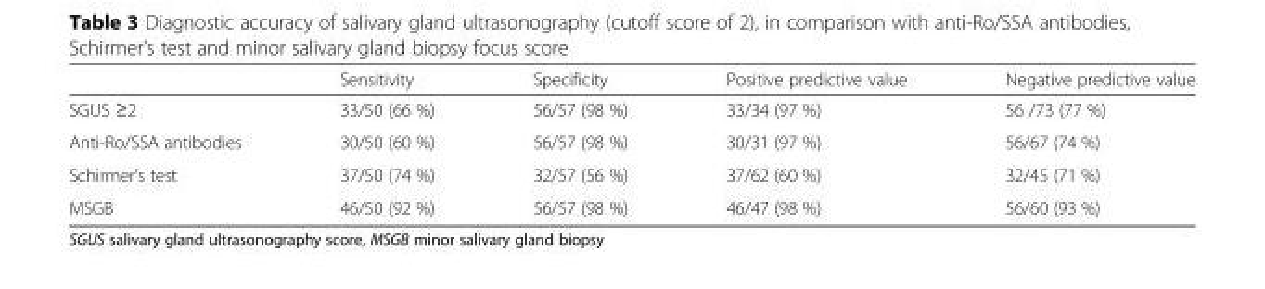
<table><thead><tr><td></td><td>Sensitivity</td><td>Specificity</td><td>Positive predictive value</td><td>Negative predictive value</td></tr></thead><tbody><tr><td>SGUS ≥2</td><td>33/50 (66 %)</td><td>56/57 (98 %)</td><td>33/34 (97 %)</td><td>56 /73 (77 %)</td></tr><tr><td>Anti-Ro/SSA antibodies</td><td>30/50 (60 %)</td><td>56/57 (98 %)</td><td>30/31 (97 %)</td><td>56/67 (74 %)</td></tr><tr><td>Schirmer’s test</td><td>37/50 (74 %)</td><td>32/57 (56 %)</td><td>37/62 (60 %)</td><td>32/45 (71 %)</td></tr><tr><td>MSGB</td><td>46/50 (92 %)</td><td>56/57 (98 %)</td><td>46/47 (98 %)</td><td>56/60 (93 %)</td></tr></tbody></table>